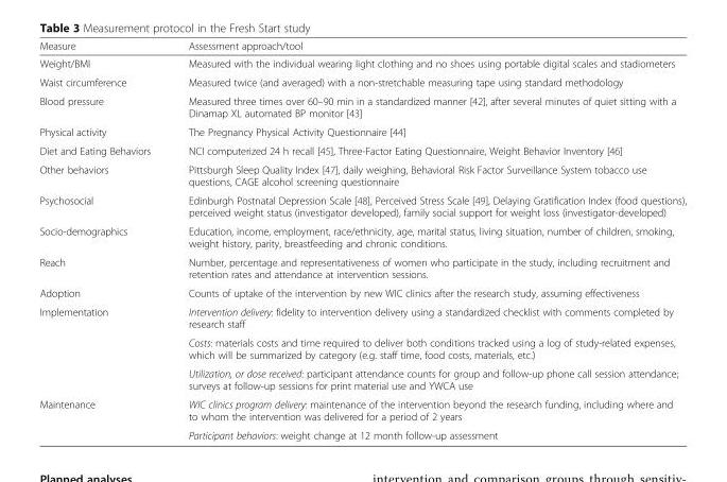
<table><thead><tr><td>Measure</td><td>Assessment approach/tool</td></tr></thead><tbody><tr><td>Weight/BMI</td><td>Measured with the individual wearing light clothing and no shoes using portable digital scales and stadiometers</td></tr><tr><td>Waist circumference</td><td>Measured twice (and averaged) with a non-stretchable measuring tape using standard methodology</td></tr><tr><td>Blood pressure</td><td>Measured three times over 60–90 min in a standardized manner [42], after several minutes of quiet sitting with a Dinamap XL automated BP monitor [43]</td></tr><tr><td>Physical activity</td><td>The Pregnancy Physical Activity Questionnaire [44]</td></tr><tr><td>Diet and Eating Behaviors</td><td>NCI computerized 24 h recall [45], Three-Factor Eating Questionnaire, Weight Behavior Inventory [46]</td></tr><tr><td>Other behaviors</td><td>Pittsburgh Sleep Quality Index [47], daily weighing, Behavioral Risk Factor Surveillance System tobacco use questions, CAGE alcohol screening questionnaire</td></tr><tr><td>Psychosocial</td><td>Edinburgh Postnatal Depression Scale [48], Perceived Stress Scale [49], Delaying Gratification Index (food questions), perceived weight status (investigator developed), family social support for weight loss (investigator-developed)</td></tr><tr><td>Socio-demographics</td><td>Education, income, employment, race/ethnicity, age, marital status, living situation, number of children, smoking, weight history, parity, breastfeeding and chronic conditions.</td></tr><tr><td>Reach</td><td>Number, percentage and representativeness of women who participate in the study, including recruitment and retention rates and attendance at intervention sessions.</td></tr><tr><td>Adoption</td><td>Counts of uptake of the intervention by new WIC clinics after the research study, assuming effectiveness</td></tr><tr><td rowspan="3">Implementation</td><td>Intervention delivery: fidelity to intervention delivery using a standardized checklist with comments completed by research staff</td></tr><tr><td>Costs: materials costs and time required to deliver both conditions tracked using a log of study-related expenses, which will be summarized by category (e.g. staff time, food costs, materials, etc.)</td></tr><tr><td>Utilization, or dose received: participant attendance counts for group and follow-up phone call session attendance; surveys at follow-up sessions for print material use and YWCA use</td></tr><tr><td rowspan="2">Maintenance</td><td>WIC clinics program delivery: maintenance of the intervention beyond the research funding, including where and to whom the intervention was delivered for a period of 2 years</td></tr><tr><td>Participant behaviors: weight change at 12 month follow-up assessment</td></tr></tbody></table>